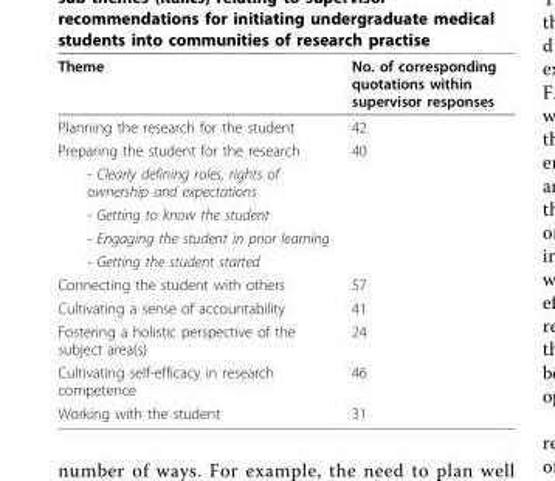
<table><thead><tr><td>Theme</td><td>No. of corresponding quotations within supervisor responses</td></tr></thead><tbody><tr><td>Planning the research for the student</td><td>42</td></tr><tr><td>Preparing the student for the research</td><td>40</td></tr><tr><td colspan="2">- Clearly defining roles, rights of ownership and expectations</td></tr><tr><td colspan="2">- Getting to know the student</td></tr><tr><td colspan="2">- Engaging the student in prior learning</td></tr><tr><td colspan="2">- Getting the student started</td></tr><tr><td>Connecting the student with others</td><td>57</td></tr><tr><td>Cultivating a sense of accountability</td><td>41</td></tr><tr><td>Fostering a holistic perspective of the subject area(s)</td><td>24</td></tr><tr><td>Cultivating self-efficacy in research competence</td><td>46</td></tr><tr><td>Working with the student</td><td>31</td></tr></tbody></table>